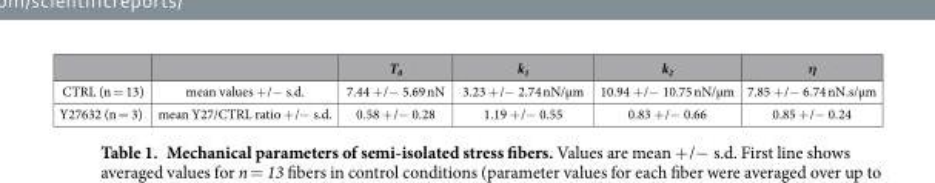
<table><thead><tr><td></td><td></td><td>T<sub>0</sub></td><td>k<sub>1</sub></td><td>k<sub>2</sub></td><td>η</td></tr></thead><tbody><tr><td>CTRL (n = 13)</td><td>mean values + /− s.d.</td><td>7.44 + /− 5.69 nN</td><td>3.23 + /− 2.74 nN/μm</td><td>10.94 + /− 10.75 nN/μm</td><td>7.85 + /− 6.74 nN.s/μm</td></tr><tr><td>Y27632 (n = 3)</td><td>mean Y27/CTRL ratio + /− s.d.</td><td>0.58 + /− 0.28</td><td>1.19 + /− 0.55</td><td>0.83 + /− 0.66</td><td>0.85 + /− 0.24</td></tr></tbody></table>